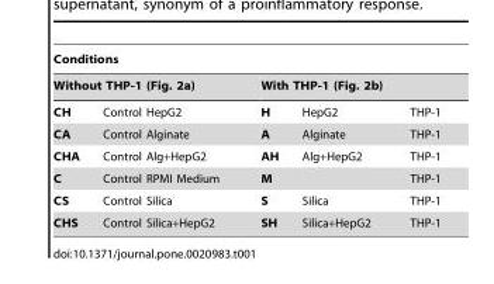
<table><thead><tr><td colspan="5">Conditions</td></tr><tr><td colspan="2">Without THP-1 (Fig. 2a)</td><td colspan="3">With THP-1 (Fig. 2b)</td></tr><tr><td>CH</td><td>Control HepG2</td><td>H</td><td>HepG2</td><td>THP-1</td></tr></thead><tbody><tr><td>CA</td><td>Control Alginate</td><td>A</td><td>Alginate</td><td>THP-1</td></tr><tr><td>CHA</td><td>Control Alg+HepG2</td><td>AH</td><td>Alg+HepG2</td><td>THP-1</td></tr><tr><td>C</td><td>Control RPMI Medium</td><td>M</td><td></td><td>THP-1</td></tr><tr><td>CS</td><td>Control Silica</td><td>S</td><td>Silica</td><td>THP-1</td></tr><tr><td>CHS</td><td>Control Silica+HepG2</td><td>SH</td><td>Silica+HepG2</td><td>THP-1</td></tr></tbody></table>